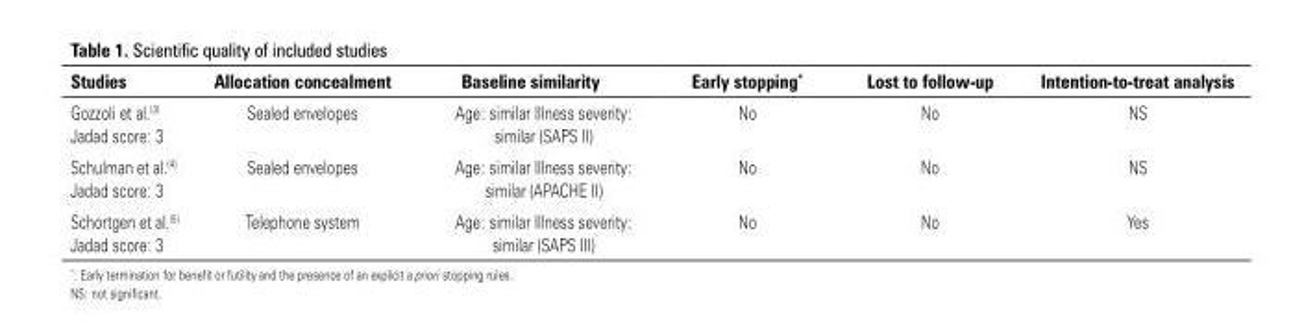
<table><thead><tr><td>Studies</td><td>Allocation concealment</td><td>Baseline similarity</td><td>Early stopping*</td><td>Lost to follow-up</td><td>Intention-to-treat analysis</td></tr></thead><tbody><tr><td>Gozzoli et al.<sup>(3)</sup> Jadad score: 3</td><td>Sealed envelopes</td><td>Age: similar Illness severity: similar (SAPS II)</td><td>No</td><td>No</td><td>NS</td></tr><tr><td>Schulman et al.<sup>(4)</sup> Jadad score: 3</td><td>Sealed envelopes</td><td>Age: similar Illness severity: similar (APACHE II)</td><td>No</td><td>No</td><td>NS</td></tr><tr><td>Schortgen et al.<sup>(5)</sup> Jadad score: 3</td><td>Telephone system</td><td>Age: similar Illness severity: similar (SAPS III)</td><td>No</td><td>No</td><td>Yes</td></tr></tbody></table>